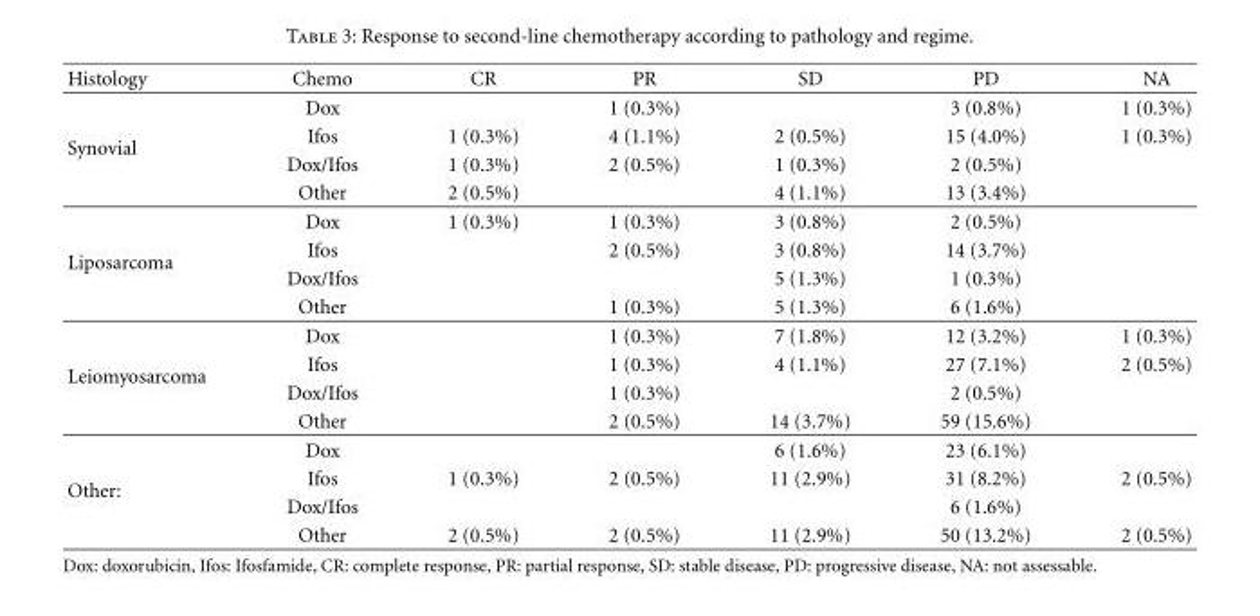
<table><thead><tr><td>Histology</td><td>Chemo</td><td>CR</td><td>PR</td><td>SD</td><td>PD</td><td>NA</td></tr></thead><tbody><tr><td rowspan="4">Synovial</td><td>Dox</td><td></td><td>1 (0.3%)</td><td></td><td>3 (0.8%)</td><td>1 (0.3%)</td></tr><tr><td>Ifos</td><td>1 (0.3%)</td><td>4 (1.1%)</td><td>2 (0.5%)</td><td>15 (4.0%)</td><td>1 (0.3%)</td></tr><tr><td>Dox/Ifos</td><td>1 (0.3%)</td><td>2 (0.5%)</td><td>1 (0.3%)</td><td>2 (0.5%)</td><td></td></tr><tr><td>Other</td><td>2 (0.5%)</td><td></td><td>4 (1.1%)</td><td>13 (3.4%)</td><td></td></tr><tr><td rowspan="4">Liposarcoma</td><td>Dox</td><td>1 (0.3%)</td><td>1 (0.3%)</td><td>3 (0.8%)</td><td>2 (0.5%)</td><td></td></tr><tr><td>Ifos</td><td></td><td>2 (0.5%)</td><td>3 (0.8%)</td><td>14 (3.7%)</td><td></td></tr><tr><td>Dox/Ifos</td><td></td><td></td><td>5 (1.3%)</td><td>1 (0.3%)</td><td></td></tr><tr><td>Other</td><td></td><td>1 (0.3%)</td><td>5 (1.3%)</td><td>6 (1.6%)</td><td></td></tr><tr><td rowspan="4">Leiomyosarcoma</td><td>Dox</td><td></td><td>1 (0.3%)</td><td>7 (1.8%)</td><td>12 (3.2%)</td><td>1 (0.3%)</td></tr><tr><td>Ifos</td><td></td><td>1 (0.3%)</td><td>4 (1.1%)</td><td>27 (7.1%)</td><td>2 (0.5%)</td></tr><tr><td>Dox/Ifos</td><td></td><td>1 (0.3%)</td><td></td><td>2 (0.5%)</td><td></td></tr><tr><td>Other</td><td></td><td>2 (0.5%)</td><td>14 (3.7%)</td><td>59 (15.6%)</td><td></td></tr><tr><td rowspan="4">Other:</td><td>Dox</td><td></td><td></td><td>6 (1.6%)</td><td>23 (6.1%)</td><td></td></tr><tr><td>Ifos</td><td>1 (0.3%)</td><td>2 (0.5%)</td><td>11 (2.9%)</td><td>31 (8.2%)</td><td>2 (0.5%)</td></tr><tr><td>Dox/Ifos</td><td></td><td></td><td></td><td>6 (1.6%)</td><td></td></tr><tr><td>Other</td><td>2 (0.5%)</td><td>2 (0.5%)</td><td>11 (2.9%)</td><td>50 (13.2%)</td><td>2 (0.5%)</td></tr></tbody></table>